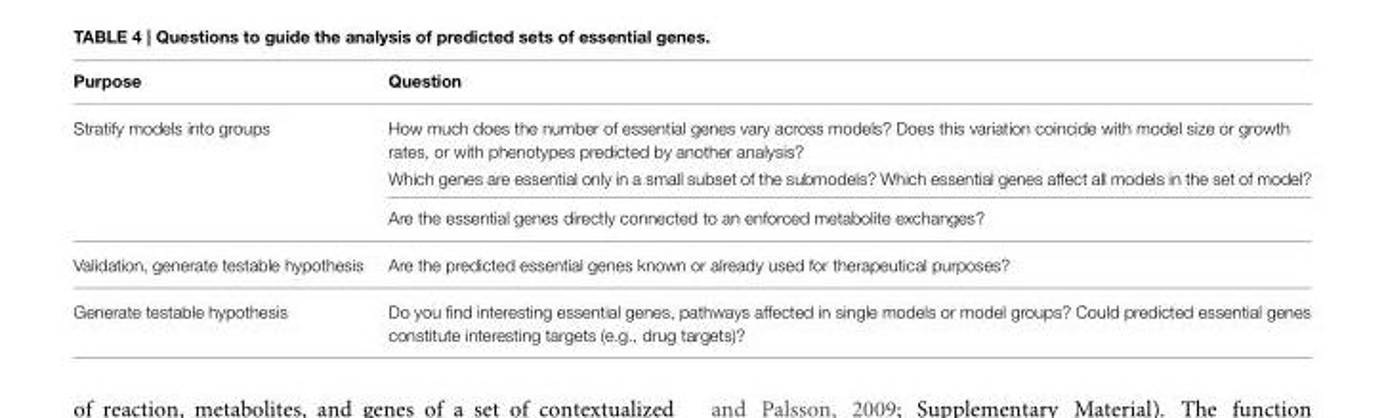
<table><thead><tr><td>Purpose</td><td>Question</td></tr></thead><tbody><tr><td rowspan="3">Stratify models into groups</td><td>How much does the number of essential genes vary across models? Does this variation coincide with model size or growth rates, or with phenotypes predicted by another analysis?</td></tr><tr><td>Which genes are essential only in a small subset of the submodels? Which essential genes affect all models in the set of model?</td></tr><tr><td>Are the essential genes directly connected to an enforced metabolite exchanges?</td></tr><tr><td>Validation, generate testable hypothesis</td><td>Are the predicted essential genes known or already used for therapeutical purposes?</td></tr><tr><td>Generate testable hypothesis</td><td>Do you find interesting essential genes, pathways affected in single models or model groups? Could predicted essential genes constitute interesting targets (e.g., drug targets)?</td></tr></tbody></table>